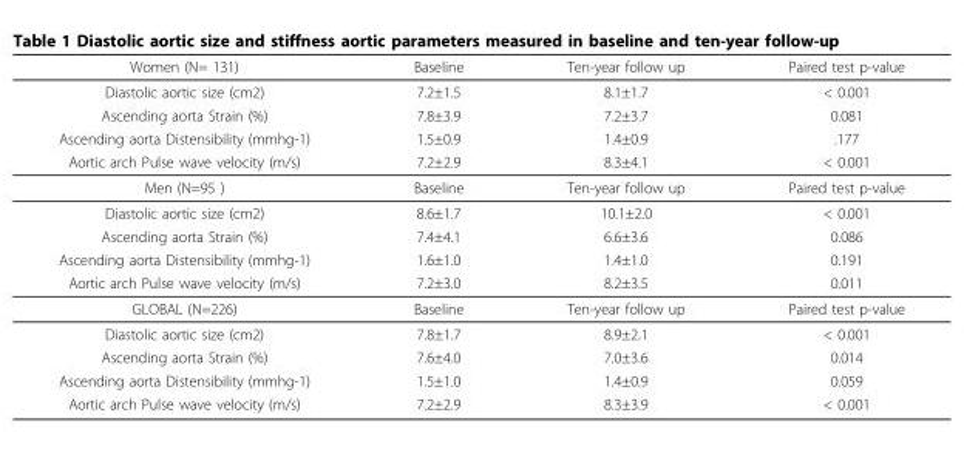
<table><thead><tr><td>Women (N= 131)</td><td>Baseline</td><td>Ten-year follow up</td><td>Paired test p-value</td></tr></thead><tbody><tr><td>Diastolic aortic size (cm2)</td><td>7.2±1.5</td><td>8.1±1.7</td><td>&lt; 0.001</td></tr><tr><td>Ascending aorta Strain (%)</td><td>7.8±3.9</td><td>7.2±3.7</td><td>0.081</td></tr><tr><td>Ascending aorta Distensibility (mmhg-1)</td><td>1.5±0.9</td><td>1.4±0.9</td><td>.177</td></tr><tr><td>Aortic arch Pulse wave velocity (m/s)</td><td>7.2±2.9</td><td>8.3±4.1</td><td>&lt; 0.001</td></tr><tr><td>Men (N=95 )</td><td>Baseline</td><td>Ten-year follow up</td><td>Paired test p-value</td></tr><tr><td>Diastolic aortic size (cm2)</td><td>8.6±1.7</td><td>10.1±2.0</td><td>&lt; 0.001</td></tr><tr><td>Ascending aorta Strain (%)</td><td>7.4±4.1</td><td>6.6±3.6</td><td>0.086</td></tr><tr><td>Ascending aorta Distensibility (mmhg-1)</td><td>1.6±1.0</td><td>1.4±1.0</td><td>0.191</td></tr><tr><td>Aortic arch Pulse wave velocity (m/s)</td><td>7.2±3.0</td><td>8.2±3.5</td><td>0.011</td></tr><tr><td>GLOBAL (N=226)</td><td>Baseline</td><td>Ten-year follow up</td><td>Paired test p-value</td></tr><tr><td>Diastolic aortic size (cm2)</td><td>7.8±1.7</td><td>8.9±2.1</td><td>&lt; 0.001</td></tr><tr><td>Ascending aorta Strain (%)</td><td>7.6±4.0</td><td>7.0±3.6</td><td>0.014</td></tr><tr><td>Ascending aorta Distensibility (mmhg-1)</td><td>1.5±1.0</td><td>1.4±0.9</td><td>0.059</td></tr><tr><td>Aortic arch Pulse wave velocity (m/s)</td><td>7.2±2.9</td><td>8.3±3.9</td><td>&lt; 0.001</td></tr></tbody></table>